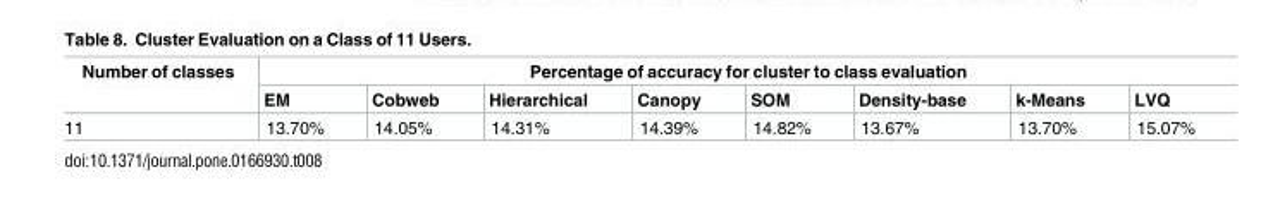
<table><thead><tr><td rowspan="2">Number of classes</td><td colspan="8">Percentage of accuracy for cluster to class evaluation</td></tr><tr><td>EM</td><td>Cobweb</td><td>Hierarchical</td><td>Canopy</td><td>SOM</td><td>Density-base</td><td>k-Means</td><td>LVQ</td></tr></thead><tbody><tr><td>11</td><td>13.70%</td><td>14.05%</td><td>14.31%</td><td>14.39%</td><td>14.82%</td><td>13.67%</td><td>13.70%</td><td>15.07%</td></tr></tbody></table>